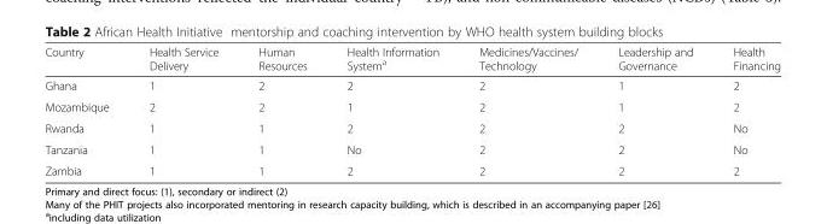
<table><thead><tr><td>Country</td><td>Health Service Delivery</td><td>Human Resources</td><td>Health Information System<sup>a</sup></td><td>Medicines/Vaccines/ Technology</td><td>Leadership and Governance</td><td>Health Financing</td></tr></thead><tbody><tr><td>Ghana</td><td>1</td><td>2</td><td>2</td><td>2</td><td>1</td><td>2</td></tr><tr><td>Mozambique</td><td>2</td><td>2</td><td>1</td><td>2</td><td>1</td><td>2</td></tr><tr><td>Rwanda</td><td>1</td><td>1</td><td>2</td><td>2</td><td>2</td><td>No</td></tr><tr><td>Tanzania</td><td>1</td><td>1</td><td>No</td><td>2</td><td>2</td><td>No</td></tr><tr><td>Zambia</td><td>1</td><td>1</td><td>2</td><td>2</td><td>2</td><td>2</td></tr></tbody></table>